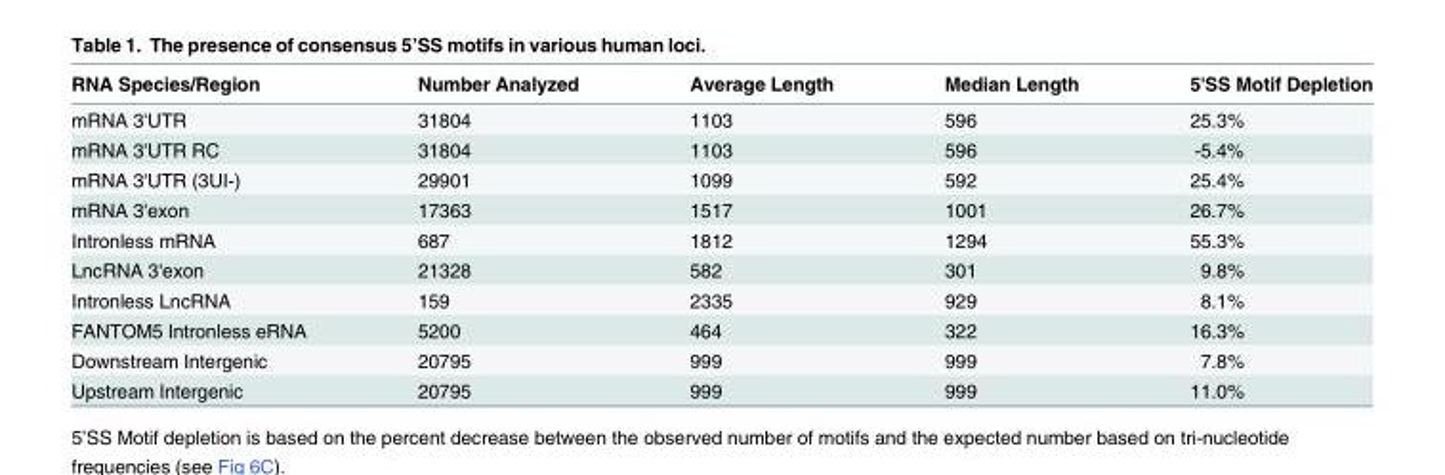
<table><thead><tr><td>RNA Species/Region</td><td>Number Analyzed</td><td>Average Length</td><td>Median Length</td><td>5&#x27;SS Motif Depletion</td></tr></thead><tbody><tr><td>mRNA 3&#x27;UTR</td><td>31804</td><td>1103</td><td>596</td><td>25.3%</td></tr><tr><td>mRNA 3&#x27;UTR RC</td><td>31804</td><td>1103</td><td>596</td><td>-5.4%</td></tr><tr><td>mRNA 3&#x27;UTR (3UI-)</td><td>29901</td><td>1099</td><td>592</td><td>25.4%</td></tr><tr><td>mRNA 3&#x27;exon</td><td>17363</td><td>1517</td><td>1001</td><td>26.7%</td></tr><tr><td>Intronless mRNA</td><td>687</td><td>1812</td><td>1294</td><td>55.3%</td></tr><tr><td>LncRNA 3&#x27;exon</td><td>21328</td><td>582</td><td>301</td><td>9.8%</td></tr><tr><td>Intronless LncRNA</td><td>159</td><td>2335</td><td>929</td><td>8.1%</td></tr><tr><td>FANTOM5 Intronless eRNA</td><td>5200</td><td>464</td><td>322</td><td>16.3%</td></tr><tr><td>Downstream Intergenic</td><td>20795</td><td>999</td><td>999</td><td>7.8%</td></tr><tr><td>Upstream Intergenic</td><td>20795</td><td>999</td><td>999</td><td>11.0%</td></tr></tbody></table>